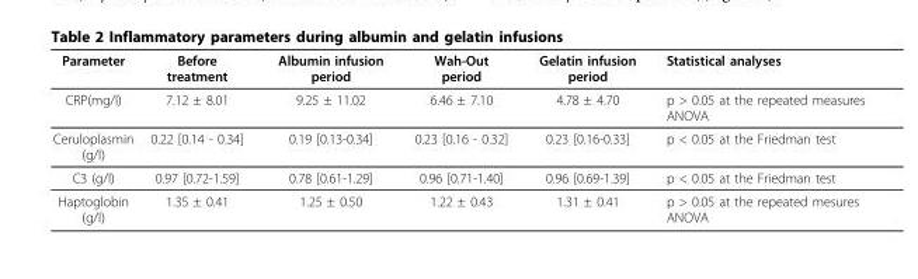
<table><thead><tr><td>Parameter</td><td>Before treatment</td><td>Albumin infusion period</td><td>Wah-Out period</td><td>Gelatin infusion period</td><td>Statistical analyses</td></tr></thead><tbody><tr><td>CRP(mg/l)</td><td>7.12 ± 8.01</td><td>9.25 ± 11.02</td><td>6.46 ± 7.10</td><td>4.78 ± 4.70</td><td>p &gt; 0.05 at the repeated measures ANOVA</td></tr><tr><td>Ceruloplasmin (g/l)</td><td>0.22 [0.14 - 0.34]</td><td>0.19 [0.13-0.34]</td><td>0.23 [0.16 - 0.32]</td><td>0.23 [0.16-0.33]</td><td>p &lt; 0.05 at the Friedman test</td></tr><tr><td>C3 (g/l)</td><td>0.97 [0.72-1.59]</td><td>0.78 [0.61-1.29]</td><td>0.96 [0.71-1.40]</td><td>0.96 [0.69-1.39]</td><td>p &lt; 0.05 at the Friedman test</td></tr><tr><td>Haptoglobin (g/l)</td><td>1.35 ± 0.41</td><td>1.25 ± 0.50</td><td>1.22 ± 0.43</td><td>1.31 ± 0.41</td><td>p &gt; 0.05 at the repeated mesures ANOVA</td></tr></tbody></table>